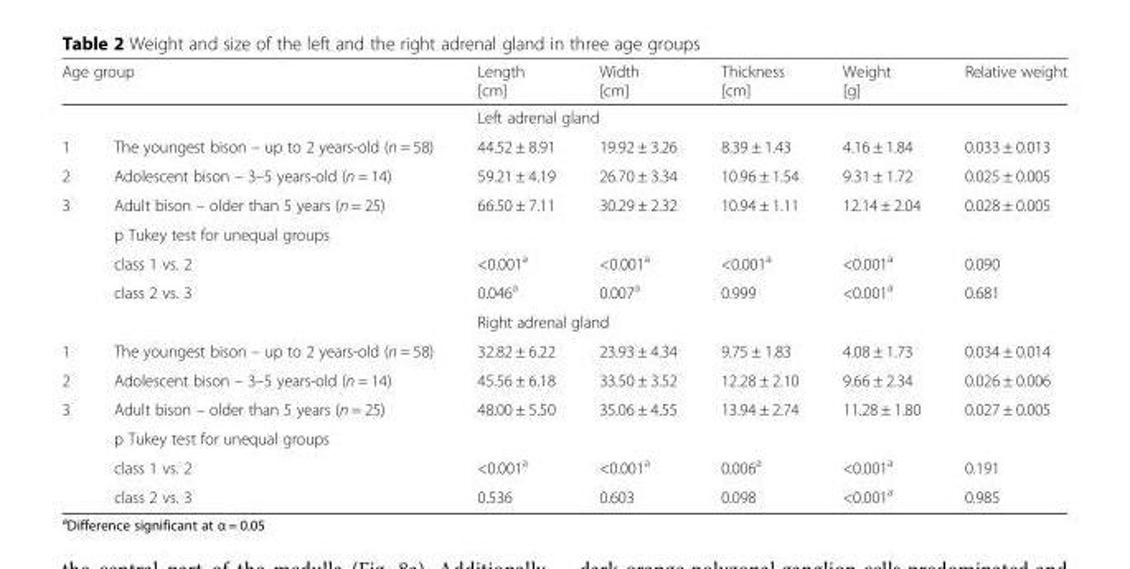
<table><thead><tr><td rowspan="2" colspan="2">Age group</td><td>Length [cm]</td><td>Width [cm]</td><td>Thickness [cm]</td><td>Weight [g]</td><td>Relative weight</td></tr><tr><td colspan="5">Left adrenal gland</td></tr><tr><td>1</td><td>The youngest bison – up to 2 years-old (n = 58)</td><td>44.52 ± 8.91</td><td>19.92 ± 3.26</td><td>8.39 ± 1.43</td><td>4.16 ± 1.84</td><td>0.033 ± 0.013</td></tr></thead><tbody><tr><td>2</td><td>Adolescent bison – 3–5 years-old (n = 14)</td><td>59.21 ± 4.19</td><td>26.70 ± 3.34</td><td>10.96 ± 1.54</td><td>9.31 ± 1.72</td><td>0.025 ± 0.005</td></tr><tr><td rowspan="5">3</td><td>Adult bison – older than 5 years (n = 25)</td><td>66.50 ± 7.11</td><td>30.29 ± 2.32</td><td>10.94 ± 1.11</td><td>12.14 ± 2.04</td><td>0.028 ± 0.005</td></tr><tr><td colspan="6">p Tukey test for unequal groups</td></tr><tr><td>class 1 vs. 2</td><td>&lt;0.001<sup>a</sup></td><td>&lt;0.001<sup>a</sup></td><td>&lt;0.001<sup>a</sup></td><td>&lt;0.001<sup>a</sup></td><td>0.090</td></tr><tr><td>class 2 vs. 3</td><td>0.046<sup>a</sup></td><td>0.007<sup>a</sup></td><td>0.999</td><td>&lt;0.001<sup>a</sup></td><td>0.681</td></tr><tr><td></td><td colspan="5">Right adrenal gland</td></tr><tr><td>1</td><td>The youngest bison – up to 2 years-old (n = 58)</td><td>32.82 ± 6.22</td><td>23.93 ± 4.34</td><td>9.75 ± 1.83</td><td>4.08 ± 1.73</td><td>0.034 ± 0.014</td></tr><tr><td>2</td><td>Adolescent bison – 3–5 years-old (n = 14)</td><td>45.56 ± 6.18</td><td>33.50 ± 3.52</td><td>12.28 ± 2.10</td><td>9.66 ± 2.34</td><td>0.026 ± 0.006</td></tr><tr><td rowspan="4">3</td><td>Adult bison – older than 5 years (n = 25)</td><td>48.00 ± 5.50</td><td>35.06 ± 4.55</td><td>13.94 ± 2.74</td><td>11.28 ± 1.80</td><td>0.027 ± 0.005</td></tr><tr><td colspan="6">p Tukey test for unequal groups</td></tr><tr><td>class 1 vs. 2</td><td>&lt;0.001<sup>a</sup></td><td>&lt;0.001<sup>a</sup></td><td>0.006<sup>a</sup></td><td>&lt;0.001<sup>a</sup></td><td>0.191</td></tr><tr><td>class 2 vs. 3</td><td>0.536</td><td>0.603</td><td>0.098</td><td>&lt;0.001<sup>a</sup></td><td>0.985</td></tr></tbody></table>